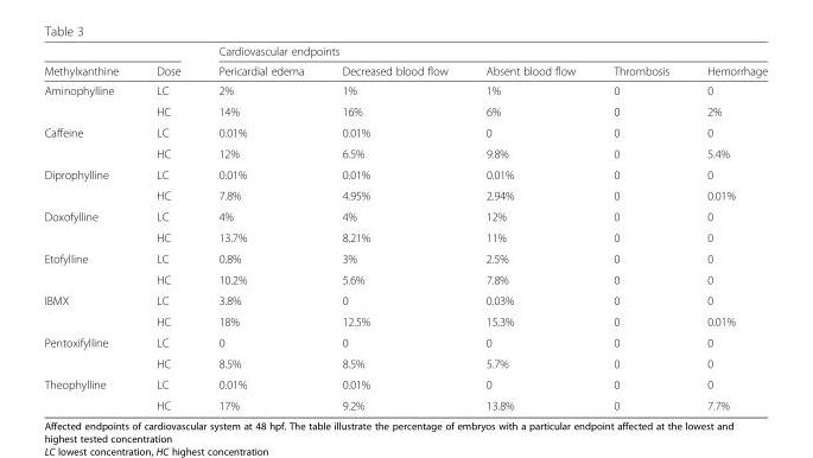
<table><thead><tr><td rowspan="2">Methylxanthine</td><td rowspan="2">Dose</td><td colspan="5">Cardiovascular endpoints</td></tr><tr><td>Pericardial edema</td><td>Decreased blood flow</td><td>Absent blood flow</td><td>Thrombosis</td><td>Hemorrhage</td></tr></thead><tbody><tr><td rowspan="2">Aminophylline</td><td>LC</td><td>2%</td><td>1%</td><td>1%</td><td>0</td><td>0</td></tr><tr><td>HC</td><td>14%</td><td>16%</td><td>6%</td><td>0</td><td>2%</td></tr><tr><td rowspan="2">Caffeine</td><td>LC</td><td>0.01%</td><td>0.01%</td><td>0</td><td>0</td><td>0</td></tr><tr><td>HC</td><td>12%</td><td>6.5%</td><td>9.8%</td><td>0</td><td>5.4%</td></tr><tr><td rowspan="2">Diprophylline</td><td>LC</td><td>0.01%</td><td>0.01%</td><td>0.01%</td><td>0</td><td>0</td></tr><tr><td>HC</td><td>7.8%</td><td>4.95%</td><td>2.94%</td><td>0</td><td>0.01%</td></tr><tr><td rowspan="2">Doxofylline</td><td>LC</td><td>4%</td><td>4%</td><td>12%</td><td>0</td><td>0</td></tr><tr><td>HC</td><td>13.7%</td><td>8.21%</td><td>11%</td><td>0</td><td>0</td></tr><tr><td rowspan="2">Etofylline</td><td>LC</td><td>0.8%</td><td>3%</td><td>2.5%</td><td>0</td><td>0</td></tr><tr><td>HC</td><td>10.2%</td><td>5.6%</td><td>7.8%</td><td>0</td><td>0</td></tr><tr><td rowspan="2">IBMX</td><td>LC</td><td>3.8%</td><td>0</td><td>0.03%</td><td>0</td><td>0</td></tr><tr><td>HC</td><td>18%</td><td>12.5%</td><td>15.3%</td><td>0</td><td>0.01%</td></tr><tr><td rowspan="2">Pentoxifylline</td><td>LC</td><td>0</td><td>0</td><td>0</td><td>0</td><td>0</td></tr><tr><td>HC</td><td>8.5%</td><td>8.5%</td><td>5.7%</td><td>0</td><td>0</td></tr><tr><td rowspan="2">Theophylline</td><td>LC</td><td>0.01%</td><td>0.01%</td><td>0</td><td>0</td><td>0</td></tr><tr><td>HC</td><td>17%</td><td>9.2%</td><td>13.8%</td><td>0</td><td>7.7%</td></tr></tbody></table>